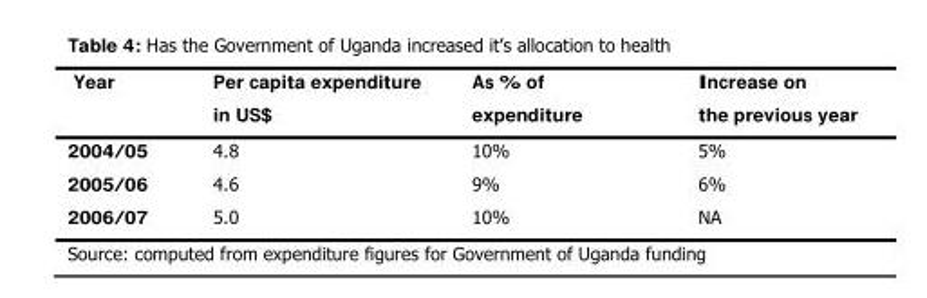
<table><thead><tr><td>Year</td><td>Per capita expenditure in US$</td><td>As % of expenditure</td><td>Increase on the previous year</td></tr></thead><tbody><tr><td>2004/05</td><td>4.8</td><td>10%</td><td>5%</td></tr><tr><td>2005/06</td><td>4.6</td><td>9%</td><td>6%</td></tr><tr><td>2006/07</td><td>5.0</td><td>10%</td><td>NA</td></tr></tbody></table>